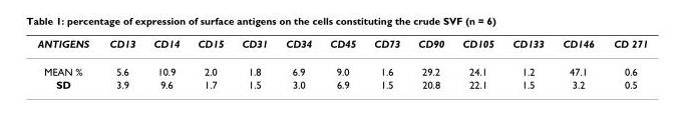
<table><thead><tr><td>ANTIGENS</td><td>CD13</td><td>CD14</td><td>CD15</td><td>CD31</td><td>CD34</td><td>CD45</td><td>CD73</td><td>CD90</td><td>CD105</td><td>CD133</td><td>CD146</td><td>CD 271</td></tr></thead><tbody><tr><td>MEAN %</td><td>5.6</td><td>10.9</td><td>2.0</td><td>1.8</td><td>6.9</td><td>9.0</td><td>1.6</td><td>29.2</td><td>24.1</td><td>1.2</td><td>47.1</td><td>0.6</td></tr><tr><td>SD</td><td>3.9</td><td>9.6</td><td>1.7</td><td>1.5</td><td>3.0</td><td>6.9</td><td>1.5</td><td>20.8</td><td>22.1</td><td>1.5</td><td>3.2</td><td>0.5</td></tr></tbody></table>